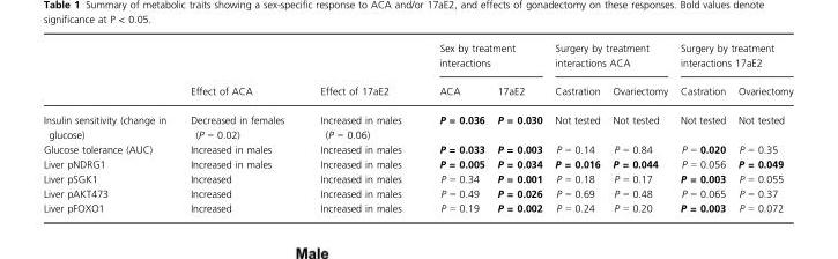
<table><thead><tr><td rowspan="2"></td><td rowspan="2">Effect of ACA</td><td rowspan="2">Effect of 17aE2</td><td colspan="2">Sex by treatment interactions</td><td colspan="2">Surgery by treatment interactions ACA</td><td colspan="2">Surgery by treatment interactions 17aE2</td></tr><tr><td>ACA</td><td>17aE2</td><td>Castration</td><td>Ovariectomy</td><td>Castration</td><td>Ovariectomy</td></tr></thead><tbody><tr><td>Insulin sensitivity (change in glucose)</td><td>Decreased in females (P = 0.02)</td><td>Increased in males (P = 0.06)</td><td>P = 0.036</td><td>P = 0.030</td><td>Not tested</td><td>Not tested</td><td>Not tested</td><td>Not tested</td></tr><tr><td>Glucose tolerance (AUC)</td><td>Increased in males</td><td>Increased in males</td><td>P = 0.033</td><td>P = 0.003</td><td>P = 0.14</td><td>P = 0.84</td><td>P = 0.020</td><td>P = 0.35</td></tr><tr><td>Liver pNDRG1</td><td>Increased in males</td><td>Increased in males</td><td>P = 0.005</td><td>P = 0.034</td><td>P = 0.016</td><td>P = 0.044</td><td>P = 0.056</td><td>P = 0.049</td></tr><tr><td>Liver pSGK1</td><td>Increased</td><td>Increased in males</td><td>P = 0.34</td><td>P = 0.001</td><td>P = 0.18</td><td>P = 0.17</td><td>P = 0.003</td><td>P = 0.055</td></tr><tr><td>Liver pAKT473</td><td>Increased</td><td>Increased in males</td><td>P = 0.49</td><td>P = 0.026</td><td>P = 0.69</td><td>P = 0.48</td><td>P = 0.065</td><td>P = 0.37</td></tr><tr><td>Liver pFOXO1</td><td>Increased</td><td>Increased in males</td><td>P = 0.19</td><td>P = 0.002</td><td>P = 0.24</td><td>P = 0.20</td><td>P = 0.003</td><td>P = 0.072</td></tr></tbody></table>